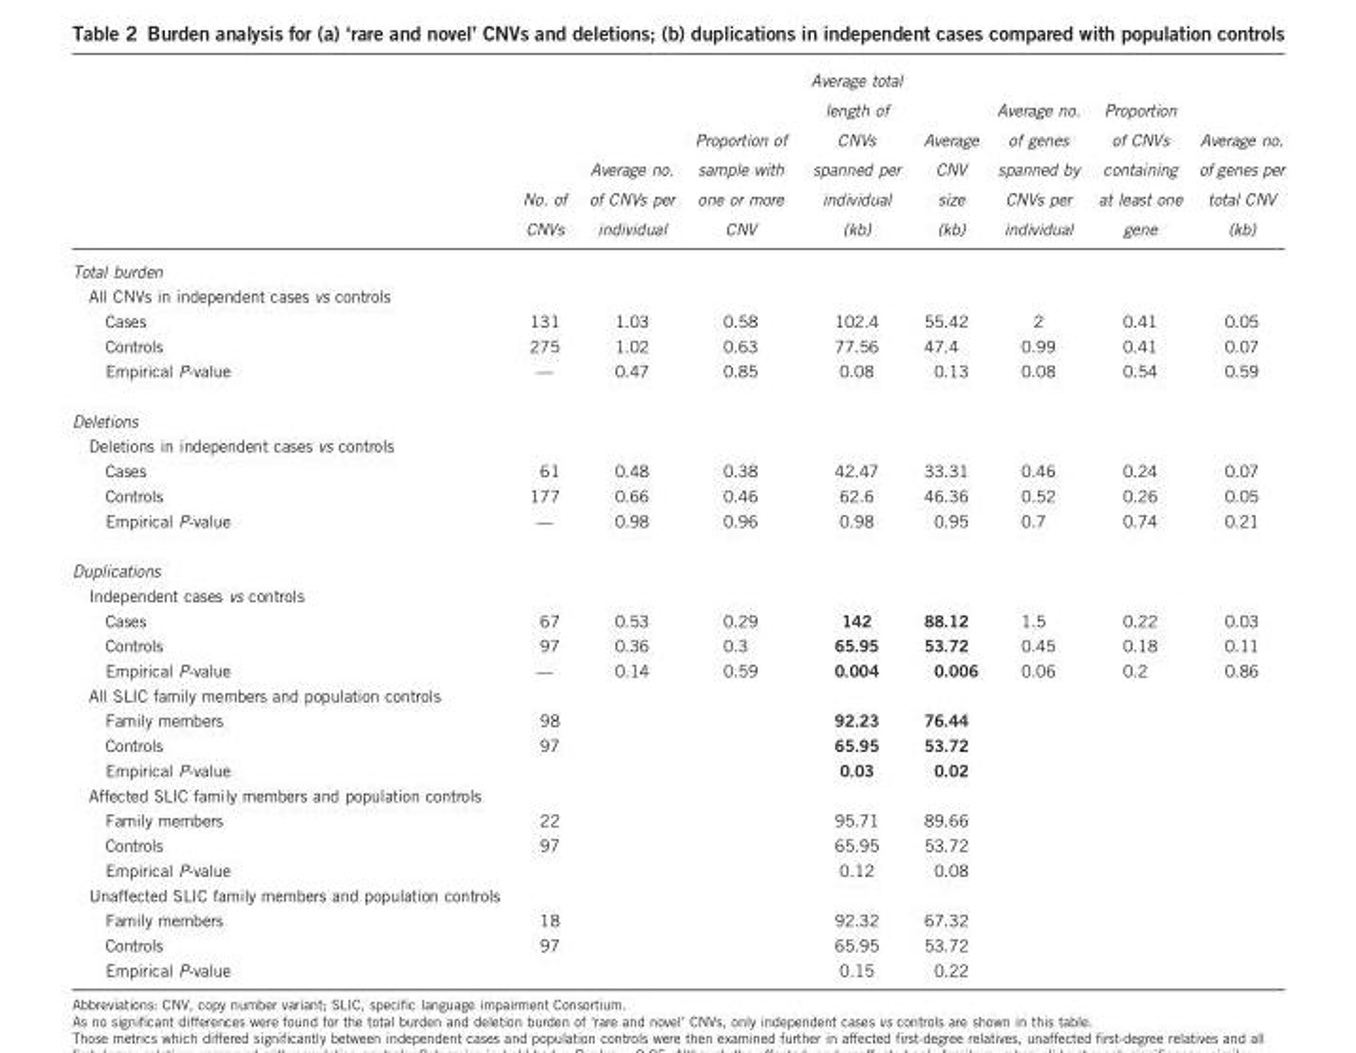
<table><thead><tr><td></td><td>No. of CNVs</td><td>Average no. of CNVs per individual</td><td>Proportion of sample with one or more CNV</td><td>Average total length of CNVs spanned per individual (kb)</td><td>Average CNV size (kb)</td><td>Average no. of genes spanned by CNVs per individual</td><td>Proportion of CNVs containing at least one gene</td><td>Average no. of genes per total CNV (kb)</td></tr></thead><tbody><tr><td colspan="9">Total burden</td></tr><tr><td colspan="9">All CNVs in independent cases vs controls</td></tr><tr><td>Cases</td><td>131</td><td>1.03</td><td>0.58</td><td>102.4</td><td>55.42</td><td>2</td><td>0.41</td><td>0.05</td></tr><tr><td>Controls</td><td>275</td><td>1.02</td><td>0.63</td><td>77.56</td><td>47.4</td><td>0.99</td><td>0.41</td><td>0.07</td></tr><tr><td>Empirical P-value</td><td>—</td><td>0.47</td><td>0.85</td><td>0.08</td><td>0.13</td><td>0.08</td><td>0.54</td><td>0.59</td></tr><tr><td colspan="9">Deletions</td></tr><tr><td colspan="9">Deletions in independent cases vs controls</td></tr><tr><td>Cases</td><td>61</td><td>0.48</td><td>0.38</td><td>42.47</td><td>33.31</td><td>0.46</td><td>0.24</td><td>0.07</td></tr><tr><td>Controls</td><td>177</td><td>0.66</td><td>0.46</td><td>62.6</td><td>46.36</td><td>0.52</td><td>0.26</td><td>0.05</td></tr><tr><td>Empirical P-value</td><td>—</td><td>0.98</td><td>0.96</td><td>0.98</td><td>0.95</td><td>0.7</td><td>0.74</td><td>0.21</td></tr><tr><td colspan="9">Duplications</td></tr><tr><td colspan="9">Independent cases vs controls</td></tr><tr><td>Cases</td><td>67</td><td>0.53</td><td>0.29</td><td>142</td><td>88.12</td><td>1.5</td><td>0.22</td><td>0.03</td></tr><tr><td>Controls</td><td>97</td><td>0.36</td><td>0.3</td><td>65.95</td><td>53.72</td><td>0.45</td><td>0.18</td><td>0.11</td></tr><tr><td>Empirical P-value</td><td>—</td><td>0.14</td><td>0.59</td><td>0.004</td><td>0.006</td><td>0.06</td><td>0.2</td><td>0.86</td></tr><tr><td colspan="9">All SLIC family members and population controls</td></tr><tr><td>Family members</td><td>98</td><td></td><td></td><td>92.23</td><td>76.44</td><td></td><td></td><td></td></tr><tr><td>Controls</td><td>97</td><td></td><td></td><td>65.95</td><td>53.72</td><td></td><td></td><td></td></tr><tr><td>Empirical P-value</td><td></td><td></td><td></td><td>0.03</td><td>0.02</td><td></td><td></td><td></td></tr><tr><td colspan="9">Affected SLIC family members and population controls</td></tr><tr><td>Family members</td><td>22</td><td></td><td></td><td>95.71</td><td>89.66</td><td></td><td></td><td></td></tr><tr><td>Controls</td><td>97</td><td></td><td></td><td>65.95</td><td>53.72</td><td></td><td></td><td></td></tr><tr><td>Empirical P-value</td><td></td><td></td><td></td><td>0.12</td><td>0.08</td><td></td><td></td><td></td></tr><tr><td colspan="9">Unaffected SLIC family members and population controls</td></tr><tr><td>Family members</td><td>18</td><td></td><td></td><td>92.32</td><td>67.32</td><td></td><td></td><td></td></tr><tr><td>Controls</td><td>97</td><td></td><td></td><td>65.95</td><td>53.72</td><td></td><td></td><td></td></tr><tr><td>Empirical P-value</td><td></td><td></td><td></td><td>0.15</td><td>0.22</td><td></td><td></td><td></td></tr></tbody></table>